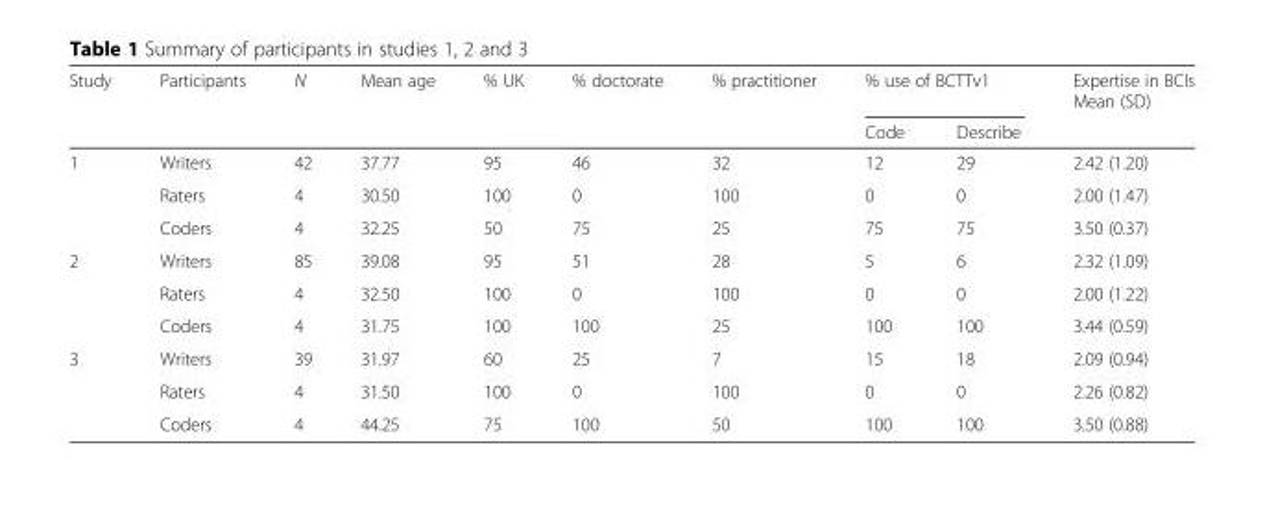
<table><thead><tr><td rowspan="2">Study</td><td rowspan="2">Participants</td><td rowspan="2">N</td><td rowspan="2">Mean age</td><td rowspan="2">% UK</td><td rowspan="2">% doctorate</td><td rowspan="2">% practitioner</td><td colspan="2">% use of BCTTv1</td><td rowspan="2">Expertise in BCIs Mean (SD)</td></tr><tr><td>Code</td><td>Describe</td></tr></thead><tbody><tr><td rowspan="3">1</td><td>Writers</td><td>42</td><td>37.77</td><td>95</td><td>46</td><td>32</td><td>12</td><td>29</td><td>2.42 (1.20)</td></tr><tr><td>Raters</td><td>4</td><td>30.50</td><td>100</td><td>0</td><td>100</td><td>0</td><td>0</td><td>2.00 (1.47)</td></tr><tr><td>Coders</td><td>4</td><td>32.25</td><td>50</td><td>75</td><td>25</td><td>75</td><td>75</td><td>3.50 (0.37)</td></tr><tr><td rowspan="3">2</td><td>Writers</td><td>85</td><td>39.08</td><td>95</td><td>51</td><td>28</td><td>5</td><td>6</td><td>2.32 (1.09)</td></tr><tr><td>Raters</td><td>4</td><td>32.50</td><td>100</td><td>0</td><td>100</td><td>0</td><td>0</td><td>2.00 (1.22)</td></tr><tr><td>Coders</td><td>4</td><td>31.75</td><td>100</td><td>100</td><td>25</td><td>100</td><td>100</td><td>3.44 (0.59)</td></tr><tr><td rowspan="3">3</td><td>Writers</td><td>39</td><td>31.97</td><td>60</td><td>25</td><td>7</td><td>15</td><td>18</td><td>2.09 (0.94)</td></tr><tr><td>Raters</td><td>4</td><td>31.50</td><td>100</td><td>0</td><td>100</td><td>0</td><td>0</td><td>2.26 (0.82)</td></tr><tr><td>Coders</td><td>4</td><td>44.25</td><td>75</td><td>100</td><td>50</td><td>100</td><td>100</td><td>3.50 (0.88)</td></tr></tbody></table>